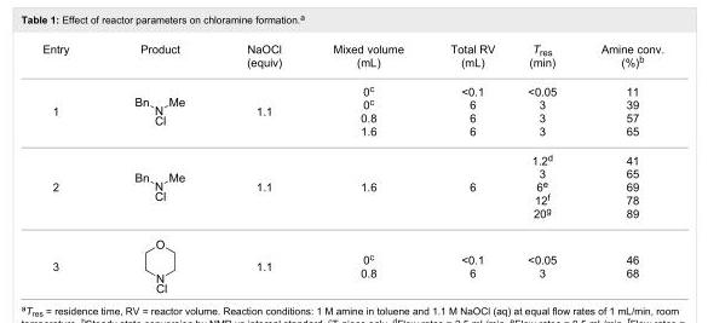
<table><tbody><tr><td>Entry</td><td>Product</td><td>NaOCl (equiv)</td><td>Mixed volume (mL)</td><td>Total RV (mL)</td><td>T<sub>res</sub> (min)</td><td>Amine conv. (%)<sup>b</sup></td></tr><tr><td>1</td><td></td><td>1.1</td><td>0<sup>c</sup> 0<sup>c</sup> 0.8 1.6</td><td>&lt;0.1 6 6 6</td><td>&lt;0.05 3 3 3</td><td>11 39 57 65</td></tr><tr><td>2</td><td></td><td>1.1</td><td>1.6</td><td>6</td><td>1.2<sup>d</sup> 3 6<sup>e</sup> 12<sup>f</sup> 20<sup>g</sup></td><td>41 65 69 78 89</td></tr><tr><td>3</td><td></td><td>1.1</td><td>0<sup>c</sup> 0.8</td><td>&lt;0.1 6</td><td>&lt;0.05 3</td><td>46 68</td></tr></tbody></table>